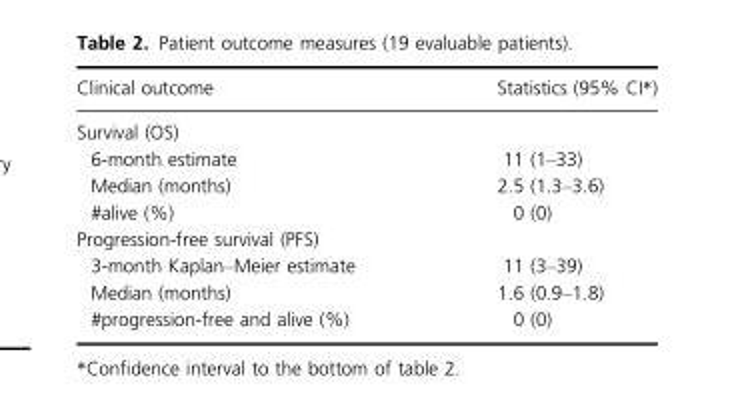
<table><thead><tr><td>Clinical outcome</td><td>Statistics (95% CI*)</td></tr></thead><tbody><tr><td colspan="2">Survival (OS)</td></tr><tr><td>6-month estimate</td><td>11 (1–33)</td></tr><tr><td>Median (months)</td><td>2.5 (1.3–3.6)</td></tr><tr><td>#alive (%)</td><td>0 (0)</td></tr><tr><td colspan="2">Progression-free survival (PFS)</td></tr><tr><td>3-month Kaplan–Meier estimate</td><td>11 (3–39)</td></tr><tr><td>Median (months)</td><td>1.6 (0.9–1.8)</td></tr><tr><td>#progression-free and alive (%)</td><td>0 (0)</td></tr></tbody></table>